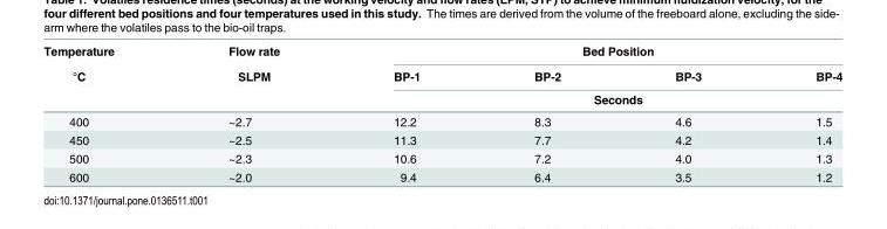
<table><thead><tr><td rowspan="3">Temperature °C</td><td rowspan="3">Flow rate SLPM</td><td colspan="4">Bed Position</td></tr><tr><td>BP-1</td><td>BP-2</td><td>BP-3</td><td>BP-4</td></tr><tr><td colspan="4">Seconds</td></tr></thead><tbody><tr><td>400</td><td>~2.7</td><td>12.2</td><td>8.3</td><td>4.6</td><td>1.5</td></tr><tr><td>450</td><td>~2.5</td><td>11.3</td><td>7.7</td><td>4.2</td><td>1.4</td></tr><tr><td>500</td><td>~2.3</td><td>10.6</td><td>7.2</td><td>4.0</td><td>1.3</td></tr><tr><td>600</td><td>~2.0</td><td>9.4</td><td>6.4</td><td>3.5</td><td>1.2</td></tr></tbody></table>